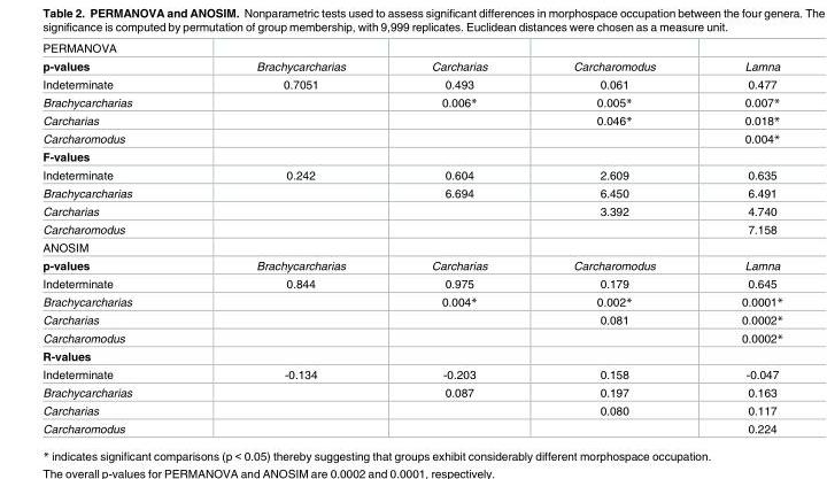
<table><tbody><tr><td colspan="5">PERMANOVA</td></tr><tr><td>p-values</td><td>Brachycarcharias</td><td>Carcharias</td><td>Carcharomodus</td><td>Lamna</td></tr><tr><td>Indeterminate</td><td>0.7051</td><td>0.493</td><td>0.061</td><td>0.477</td></tr><tr><td>Brachycarcharias</td><td></td><td>0.006*</td><td>0.005*</td><td>0.007*</td></tr><tr><td>Carcharias</td><td></td><td></td><td>0.046*</td><td>0.018*</td></tr><tr><td>Carcharomodus</td><td></td><td></td><td></td><td>0.004*</td></tr><tr><td colspan="5">F-values</td></tr><tr><td>Indeterminate</td><td>0.242</td><td>0.604</td><td>2.609</td><td>0.635</td></tr><tr><td>Brachycarcharias</td><td></td><td>6.694</td><td>6.450</td><td>6.491</td></tr><tr><td>Carcharias</td><td></td><td></td><td>3.392</td><td>4.740</td></tr><tr><td>Carcharomodus</td><td></td><td></td><td></td><td>7.158</td></tr><tr><td colspan="5">ANOSIM</td></tr><tr><td>p-values</td><td>Brachycarcharias</td><td>Carcharias</td><td>Carcharomodus</td><td>Lamna</td></tr><tr><td>Indeterminate</td><td>0.844</td><td>0.975</td><td>0.179</td><td>0.645</td></tr><tr><td>Brachycarcharias</td><td></td><td>0.004*</td><td>0.002*</td><td>0.0001*</td></tr><tr><td>Carcharias</td><td></td><td></td><td>0.081</td><td>0.0002*</td></tr><tr><td>Carcharomodus</td><td></td><td></td><td></td><td>0.0002*</td></tr><tr><td colspan="5">R-values</td></tr><tr><td>Indeterminate</td><td>-0.134</td><td>-0.203</td><td>0.158</td><td>-0.047</td></tr><tr><td>Brachycarcharias</td><td></td><td>0.087</td><td>0.197</td><td>0.163</td></tr><tr><td>Carcharias</td><td></td><td></td><td>0.080</td><td>0.117</td></tr><tr><td>Carcharomodus</td><td></td><td></td><td></td><td>0.224</td></tr></tbody></table>